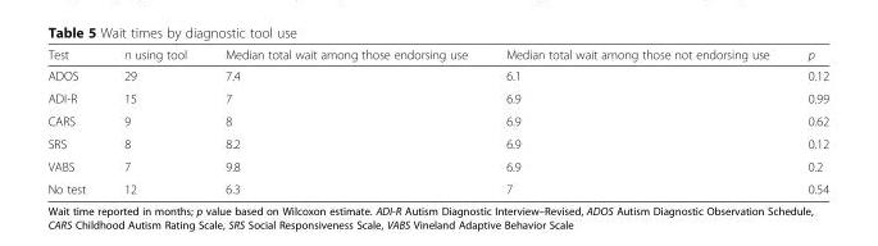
<table><thead><tr><td>Test</td><td>n using tool</td><td>Median total wait among those endorsing use</td><td>Median total wait among those not endorsing use</td><td>p</td></tr></thead><tbody><tr><td>ADOS</td><td>29</td><td>7.4</td><td>6.1</td><td>0.12</td></tr><tr><td>ADI-R</td><td>15</td><td>7</td><td>6.9</td><td>0.99</td></tr><tr><td>CARS</td><td>9</td><td>8</td><td>6.9</td><td>0.62</td></tr><tr><td>SRS</td><td>8</td><td>8.2</td><td>6.9</td><td>0.12</td></tr><tr><td>VABS</td><td>7</td><td>9.8</td><td>6.9</td><td>0.2</td></tr><tr><td>No test</td><td>12</td><td>6.3</td><td>7</td><td>0.54</td></tr></tbody></table>